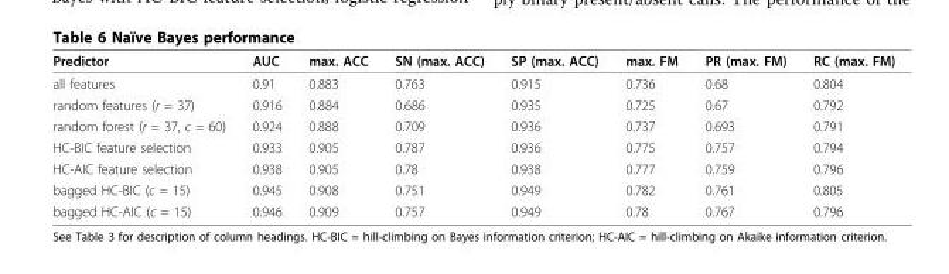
<table><thead><tr><td>Predictor</td><td>AUC</td><td>max. ACC</td><td>SN (max. ACC)</td><td>SP (max. ACC)</td><td>max. FM</td><td>PR (max. FM)</td><td>RC (max. FM)</td></tr></thead><tbody><tr><td>all features</td><td>0.91</td><td>0.883</td><td>0.763</td><td>0.915</td><td>0.736</td><td>0.68</td><td>0.804</td></tr><tr><td>random features (r = 37)</td><td>0.916</td><td>0.884</td><td>0.686</td><td>0.935</td><td>0.725</td><td>0.67</td><td>0.792</td></tr><tr><td>random forest (r = 37, c = 60)</td><td>0.924</td><td>0.888</td><td>0.709</td><td>0.936</td><td>0.737</td><td>0.693</td><td>0.791</td></tr><tr><td>HC-BIC feature selection</td><td>0.933</td><td>0.905</td><td>0.787</td><td>0.936</td><td>0.775</td><td>0.757</td><td>0.794</td></tr><tr><td>HC-AIC feature selection</td><td>0.938</td><td>0.905</td><td>0.78</td><td>0.938</td><td>0.777</td><td>0.759</td><td>0.796</td></tr><tr><td>bagged HC-BIC (c = 15)</td><td>0.945</td><td>0.908</td><td>0.751</td><td>0.949</td><td>0.782</td><td>0.761</td><td>0.805</td></tr><tr><td>bagged HC-AIC (c = 15)</td><td>0.946</td><td>0.909</td><td>0.757</td><td>0.949</td><td>0.78</td><td>0.767</td><td>0.796</td></tr></tbody></table>